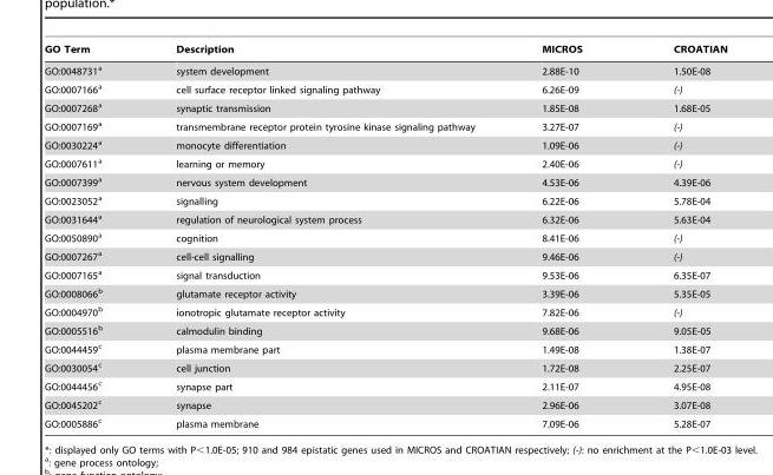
<table><thead><tr><td>GO Term</td><td>Description</td><td>MICROS</td><td>CROATIAN</td></tr></thead><tbody><tr><td>GO:0048731<sup>a</sup></td><td>system development</td><td>2.88E-10</td><td>1.50E-08</td></tr><tr><td>GO:0007166<sup>a</sup></td><td>cell surface receptor linked signaling pathway</td><td>6.26E-09</td><td>(-)</td></tr><tr><td>GO:0007268<sup>a</sup></td><td>synaptic transmission</td><td>1.85E-08</td><td>1.68E-05</td></tr><tr><td>GO:0007169<sup>a</sup></td><td>transmembrane receptor protein tyrosine kinase signaling pathway</td><td>3.27E-07</td><td>(-)</td></tr><tr><td>GO:0030224<sup>a</sup></td><td>monocyte differentiation</td><td>1.09E-06</td><td>(-)</td></tr><tr><td>GO:0007611<sup>a</sup></td><td>learning or memory</td><td>2.40E-06</td><td>(-)</td></tr><tr><td>GO:0007399<sup>a</sup></td><td>nervous system development</td><td>4.53E-06</td><td>4.39E-06</td></tr><tr><td>GO:0023052<sup>a</sup></td><td>signalling</td><td>6.22E-06</td><td>5.78E-04</td></tr><tr><td>GO:0031644<sup>a</sup></td><td>regulation of neurological system process</td><td>6.32E-06</td><td>5.63E-04</td></tr><tr><td>GO:0050890<sup>a</sup></td><td>cognition</td><td>8.41E-06</td><td>(-)</td></tr><tr><td>GO:0007267<sup>a</sup></td><td>cell-cell signalling</td><td>9.46E-06</td><td>(-)</td></tr><tr><td>GO:0007165<sup>a</sup></td><td>signal transduction</td><td>9.53E-06</td><td>6.35E-07</td></tr><tr><td>GO:0008066<sup>b</sup></td><td>glutamate receptor activity</td><td>3.39E-06</td><td>5.35E-05</td></tr><tr><td>GO:0004970<sup>b</sup></td><td>ionotropic glutamate receptor activity</td><td>7.82E-06</td><td>(-)</td></tr><tr><td>GO:0005516<sup>b</sup></td><td>calmodulin binding</td><td>9.68E-06</td><td>9.05E-05</td></tr><tr><td>GO:0044459<sup>c</sup></td><td>plasma membrane part</td><td>1.49E-08</td><td>1.38E-07</td></tr><tr><td>GO:0030054<sup>c</sup></td><td>cell junction</td><td>1.72E-08</td><td>2.25E-07</td></tr><tr><td>GO:0044456<sup>c</sup></td><td>synapse part</td><td>2.11E-07</td><td>4.95E-08</td></tr><tr><td>GO:0045202<sup>c</sup></td><td>synapse</td><td>2.96E-06</td><td>3.07E-08</td></tr><tr><td>GO:0005886<sup>c</sup></td><td>plasma membrane</td><td>7.09E-06</td><td>5.28E-07</td></tr></tbody></table>